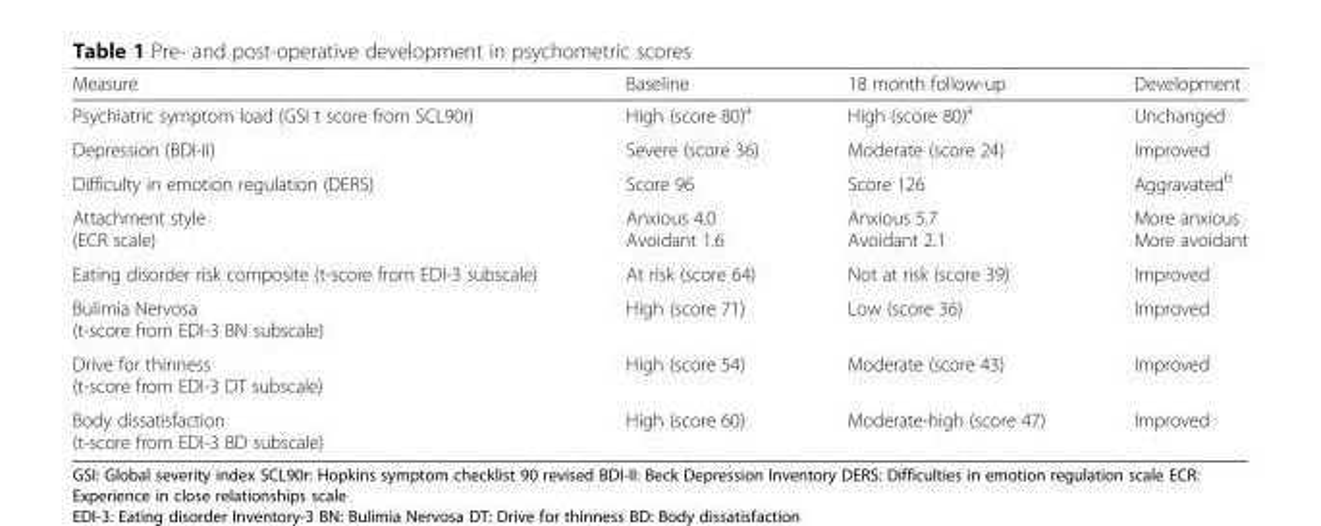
<table><thead><tr><td>Measure</td><td>Baseline</td><td>18 month follow-up</td><td>Development</td></tr></thead><tbody><tr><td>Psychiatric symptom load (GSI t score from SCL90r)</td><td>High (score 80)<sup>a</sup></td><td>High (score 80)<sup>a</sup></td><td>Unchanged</td></tr><tr><td>Depression (BDI-II)</td><td>Severe (score 36)</td><td>Moderate (score 24)</td><td>Improved</td></tr><tr><td>Difficulty in emotion regulation (DERS)</td><td>Score 96</td><td>Score 126</td><td>Aggravated<sup>b</sup></td></tr><tr><td>Attachment style (ECR scale)</td><td>Anxious 4.0 Avoidant 1.6</td><td>Anxious 5.7 Avoidant 2.1</td><td>More anxious More avoidant</td></tr><tr><td>Eating disorder risk composite (t-score from EDI-3 subscale)</td><td>At risk (score 64)</td><td>Not at risk (score 39)</td><td>Improved</td></tr><tr><td>Bulimia Nervosa (t-score from EDI-3 BN subscale)</td><td>High (score 71)</td><td>Low (score 36)</td><td>Improved</td></tr><tr><td>Drive for thinness (t-score from EDI-3 DT subscale)</td><td>High (score 54)</td><td>Moderate (score 43)</td><td>Improved</td></tr><tr><td>Body dissatisfaction (t-score from EDI-3 BD subscale)</td><td>High (score 60)</td><td>Moderate-high (score 47)</td><td>Improved</td></tr></tbody></table>